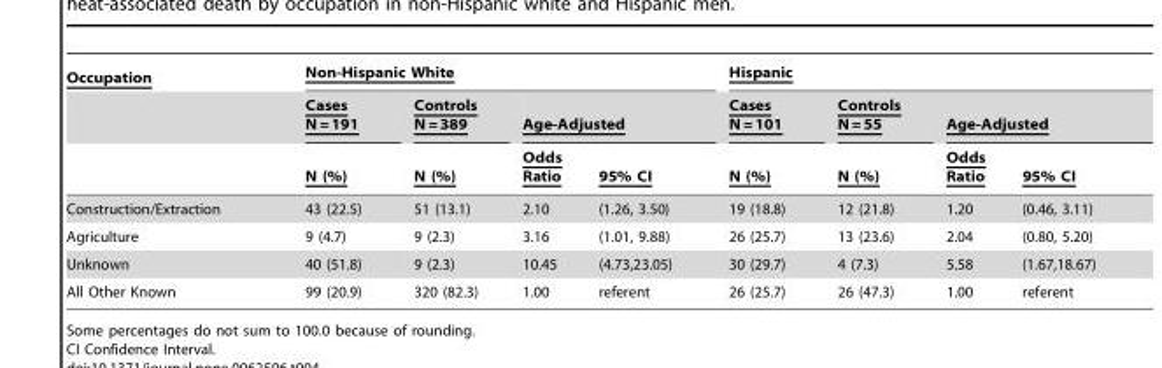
<table><thead><tr><td rowspan="3">Occupation</td><td colspan="4">Non-Hispanic White</td><td colspan="4">Hispanic</td></tr><tr><td rowspan="2">Cases N = 191 N (%)</td><td rowspan="2">Controls N = 389 N (%)</td><td colspan="2">Age-Adjusted</td><td rowspan="2">Cases N = 101 N (%)</td><td rowspan="2">Controls N = 55 N (%)</td><td colspan="2">Age-Adjusted</td></tr><tr><td>Odds Ratio</td><td>95% CI</td><td>Odds Ratio</td><td>95% CI</td></tr></thead><tbody><tr><td>Construction/Extraction</td><td>43 (22.5)</td><td>51 (13.1)</td><td>2.10</td><td>(1.26, 3.50)</td><td>19 (18.8)</td><td>12 (21.8)</td><td>1.20</td><td>(0.46, 3.11)</td></tr><tr><td>Agriculture</td><td>9 (4.7)</td><td>9 (2.3)</td><td>3.16</td><td>(1.01, 9.88)</td><td>26 (25.7)</td><td>13 (23.6)</td><td>2.04</td><td>(0.80, 5.20)</td></tr><tr><td>Unknown</td><td>40 (51.8)</td><td>9 (2.3)</td><td>10.45</td><td>(4.73,23.05)</td><td>30 (29.7)</td><td>4 (7.3)</td><td>5.58</td><td>(1.67,18.67)</td></tr><tr><td>All Other Known</td><td>99 (20.9)</td><td>320 (82.3)</td><td>1.00</td><td>referent</td><td>26 (25.7)</td><td>26 (47.3)</td><td>1.00</td><td>referent</td></tr></tbody></table>